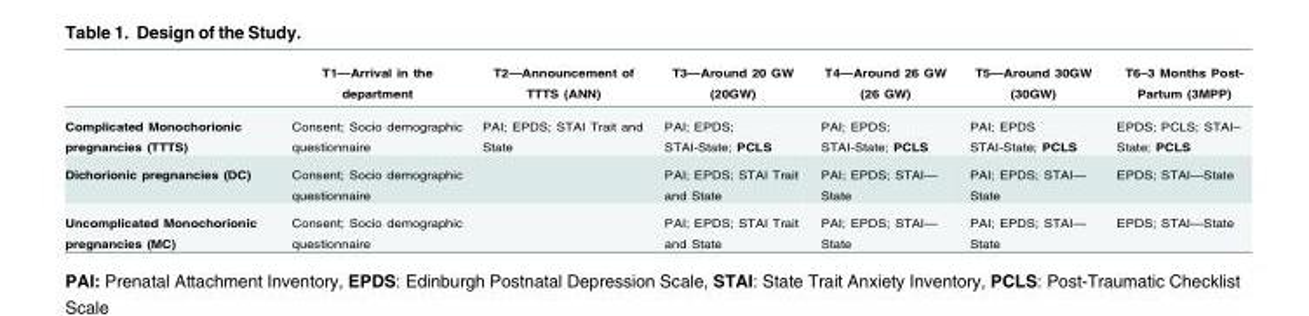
<table><thead><tr><td></td><td><sub>T1—Arrival in the department</sub></td><td><sub>T2—Announcement of TTTS (ANN)</sub></td><td><sub>T3—Around 20 GW (20GW)</sub></td><td><sub>T4—Around 26 GW (26 GW)</sub></td><td><sub>T5—Around 30GW (30GW)</sub></td><td><sub>T6–3 Months Post- Partum (3MPP)</sub></td></tr></thead><tbody><tr><td><sub>Complicated Monochorionic pregnancies (TTTS)</sub></td><td><sub>Consent; Socio demographic questionnaire</sub></td><td><sub>PAI; EPDS; STAI Trait and State</sub></td><td><sub>PAI; EPDS; STAI-State; PCLS</sub></td><td><sub>PAI; EPDS; STAI-State; PCLS</sub></td><td><sub>PAI; EPDS STAI-State; PCLS</sub></td><td><sub>EPDS; PCLS; STAI– State; PCLS</sub></td></tr><tr><td><sub>Dichorionic pregnancies (DC)</sub></td><td><sub>Consent; Socio demographic questionnaire</sub></td><td></td><td><sub>PAI; EPDS; STAI Trait and State</sub></td><td><sub>PAI; EPDS; STAI— State</sub></td><td><sub>PAI; EPDS; STAI— State</sub></td><td><sub>EPDS; STAI—State</sub></td></tr><tr><td><sub>Uncomplicated Monochorionic pregnancies (MC)</sub></td><td><sub>Consent; Socio demographic questionnaire</sub></td><td></td><td><sub>PAI; EPDS; STAI Trait and State</sub></td><td><sub>PAI; EPDS; STAI— State</sub></td><td><sub>PAI; EPDS; STAI— State</sub></td><td><sub>EPDS; STAI—State</sub></td></tr></tbody></table>